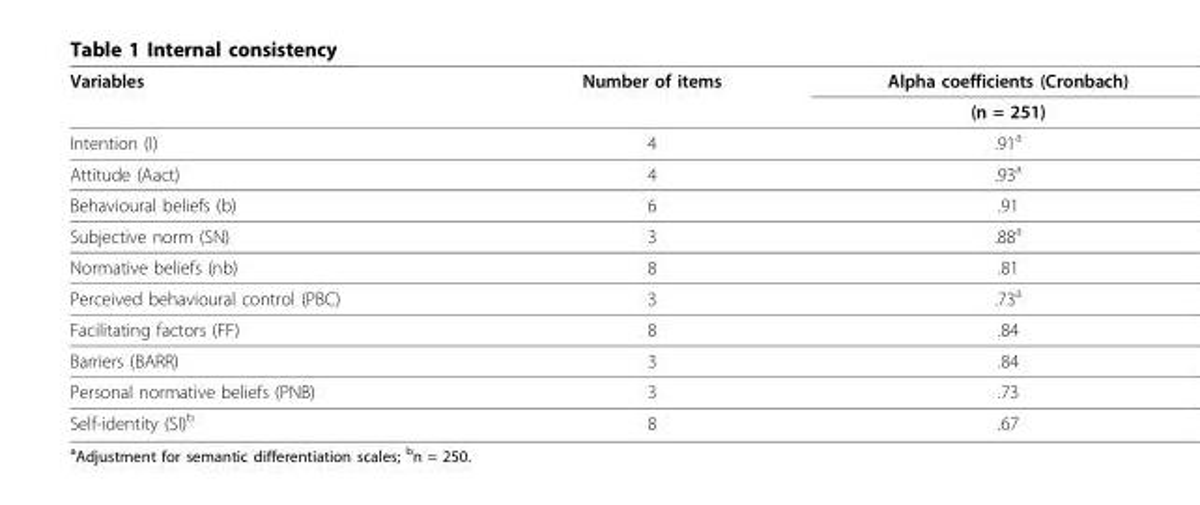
<table><thead><tr><td rowspan="2">Variables</td><td rowspan="2">Number of items</td><td rowspan="2">Alpha coefficients (Cronbach) (n = 251)</td></tr><tr></tr></thead><tbody><tr><td>Intention (I)</td><td>4</td><td>.91<sup>a</sup></td></tr><tr><td>Attitude (Aact)</td><td>4</td><td>.93<sup>a</sup></td></tr><tr><td>Behavioural beliefs (b)</td><td>6</td><td>.91</td></tr><tr><td>Subjective norm (SN)</td><td>3</td><td>.88<sup>a</sup></td></tr><tr><td>Normative beliefs (nb)</td><td>8</td><td>.81</td></tr><tr><td>Perceived behavioural control (PBC)</td><td>3</td><td>.73<sup>a</sup></td></tr><tr><td>Facilitating factors (FF)</td><td>8</td><td>.84</td></tr><tr><td>Barriers (BARR)</td><td>3</td><td>.84</td></tr><tr><td>Personal normative beliefs (PNB)</td><td>3</td><td>.73</td></tr><tr><td>Self-identity (SI)<sup>b</sup></td><td>8</td><td>.67</td></tr></tbody></table>